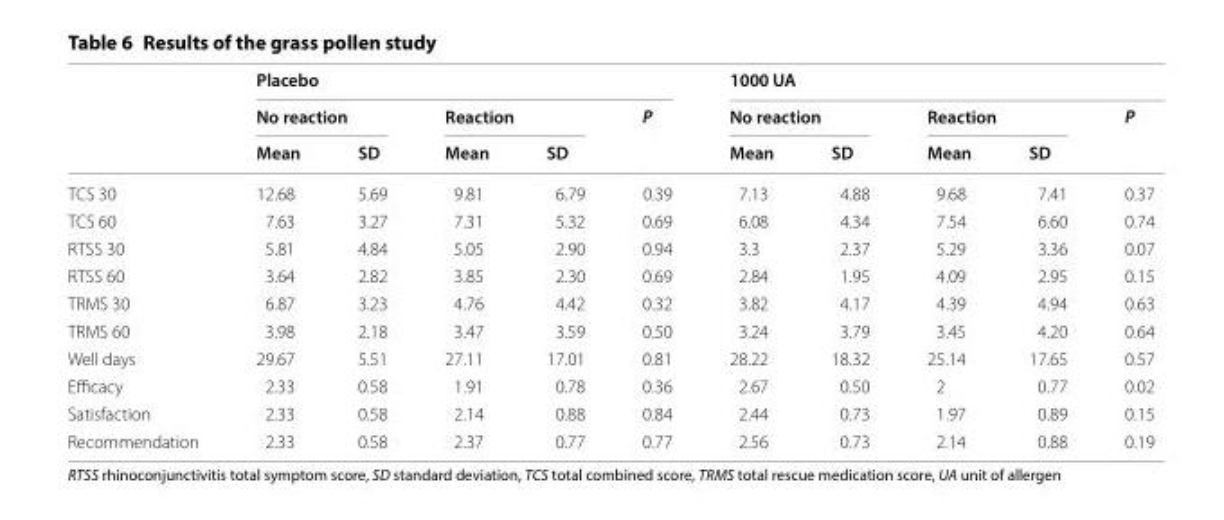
<table><thead><tr><td rowspan="3"></td><td colspan="5">Placebo</td><td colspan="5">1000 UA</td></tr><tr><td colspan="2">No reaction</td><td colspan="2">Reaction</td><td rowspan="2">P</td><td colspan="2">No reaction</td><td colspan="2">Reaction</td><td rowspan="2">P</td></tr><tr><td>Mean</td><td>SD</td><td>Mean</td><td>SD</td><td>Mean</td><td>SD</td><td>Mean</td><td>SD</td></tr></thead><tbody><tr><td>TCS 30</td><td>12.68</td><td>5.69</td><td>9.81</td><td>6.79</td><td>0.39</td><td>7.13</td><td>4.88</td><td>9.68</td><td>7.41</td><td>0.37</td></tr><tr><td>TCS 60</td><td>7.63</td><td>3.27</td><td>7.31</td><td>5.32</td><td>0.69</td><td>6.08</td><td>4.34</td><td>7.54</td><td>6.60</td><td>0.74</td></tr><tr><td>RTSS 30</td><td>5.81</td><td>4.84</td><td>5.05</td><td>2.90</td><td>0.94</td><td>3.3</td><td>2.37</td><td>5.29</td><td>3.36</td><td>0.07</td></tr><tr><td>RTSS 60</td><td>3.64</td><td>2.82</td><td>3.85</td><td>2.30</td><td>0.69</td><td>2.84</td><td>1.95</td><td>4.09</td><td>2.95</td><td>0.15</td></tr><tr><td>TRMS 30</td><td>6.87</td><td>3.23</td><td>4.76</td><td>4.42</td><td>0.32</td><td>3.82</td><td>4.17</td><td>4.39</td><td>4.94</td><td>0.63</td></tr><tr><td>TRMS 60</td><td>3.98</td><td>2.18</td><td>3.47</td><td>3.59</td><td>0.50</td><td>3.24</td><td>3.79</td><td>3.45</td><td>4.20</td><td>0.64</td></tr><tr><td>Well days</td><td>29.67</td><td>5.51</td><td>27.11</td><td>17.01</td><td>0.81</td><td>28.22</td><td>18.32</td><td>25.14</td><td>17.65</td><td>0.57</td></tr><tr><td>Efficacy</td><td>2.33</td><td>0.58</td><td>1.91</td><td>0.78</td><td>0.36</td><td>2.67</td><td>0.50</td><td>2</td><td>0.77</td><td>0.02</td></tr><tr><td>Satisfaction</td><td>2.33</td><td>0.58</td><td>2.14</td><td>0.88</td><td>0.84</td><td>2.44</td><td>0.73</td><td>1.97</td><td>0.89</td><td>0.15</td></tr><tr><td>Recommendation</td><td>2.33</td><td>0.58</td><td>2.37</td><td>0.77</td><td>0.77</td><td>2.56</td><td>0.73</td><td>2.14</td><td>0.88</td><td>0.19</td></tr></tbody></table>